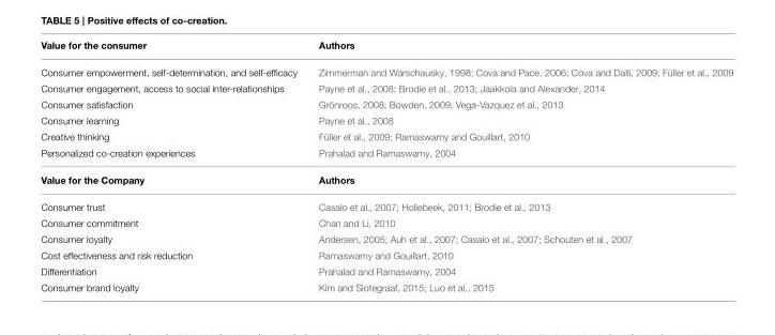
<table><thead><tr><td>Value for the consumer</td><td>Authors</td></tr></thead><tbody><tr><td>Consumer empowerment, self-determination, and self-efficacy</td><td>Zimmerman and Warschausky, 1998; Cova and Pace, 2006; Cova and Dalli, 2009; Füller et al., 2009</td></tr><tr><td>Consumer engagement, access to social inter-relationships</td><td>Payne et al., 2008; Brodie et al., 2013; Jaakkola and Alexander, 2014</td></tr><tr><td>Consumer satisfaction</td><td>Grönroos, 2008; Bowden, 2009; Vega-Vazquez et al., 2013</td></tr><tr><td>Consumer learning</td><td>Payne et al., 2008</td></tr><tr><td>Creative thinking</td><td>Füller et al., 2009; Ramaswamy and Gouillart, 2010</td></tr><tr><td>Personalized co-creation experiences</td><td>Prahalad and Ramaswamy, 2004</td></tr><tr><td>Value for the Company</td><td>Authors</td></tr><tr><td>Consumer trust</td><td>Casalo et al., 2007; Hollebeek, 2011; Brodie et al., 2013</td></tr><tr><td>Consumer commitment</td><td>Chan and Li, 2010</td></tr><tr><td>Consumer loyalty</td><td>Andersen, 2005; Auh et al., 2007; Casalo et al., 2007; Schouten et al., 2007</td></tr><tr><td>Cost effectiveness and risk reduction</td><td>Ramaswamy and Gouillart, 2010</td></tr><tr><td>Differentiation</td><td>Prahalad and Ramaswamy, 2004</td></tr><tr><td>Consumer brand loyalty</td><td>Kim and Slotegraaf, 2015; Luo et al., 2015</td></tr></tbody></table>